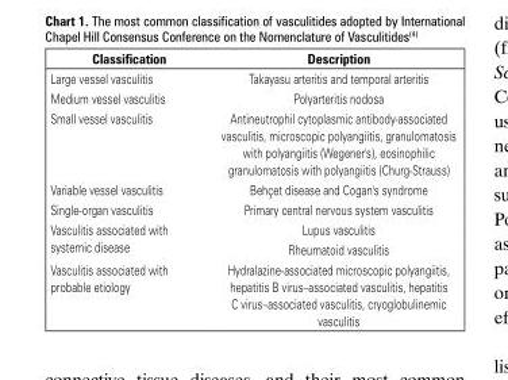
<table><thead><tr><td>Classification</td><td>Description</td></tr></thead><tbody><tr><td>Large vessel vasculitis</td><td>Takayasu arteritis and temporal arteritis</td></tr><tr><td>Medium vessel vasculitis</td><td>Polyarteritis nodosa</td></tr><tr><td>Small vessel vasculitis</td><td>Antineutrophil cytoplasmic antibody-associated vasculitis, microscopic polyangiitis, granulomatosis with polyangiitis (Wegener&#x27;s), eosinophilic granulomatosis with polyangiitis (Churg-Strauss)</td></tr><tr><td>Variable vessel vasculitis</td><td>Behçet disease and Cogan&#x27;s syndrome</td></tr><tr><td>Single-organ vasculitis</td><td>Primary central nervous system vasculitis</td></tr><tr><td rowspan="2">Vasculitis associated with systemic disease</td><td>Lupus vasculitis</td></tr><tr><td>Rheumatoid vasculitis</td></tr><tr><td>Vasculitis associated with probable etiology</td><td>Hydralazine-associated microscopic polyangiitis, hepatitis B virus–associated vasculitis, hepatitis C virus–associated vasculitis, cryoglobulinemic vasculitis</td></tr></tbody></table>